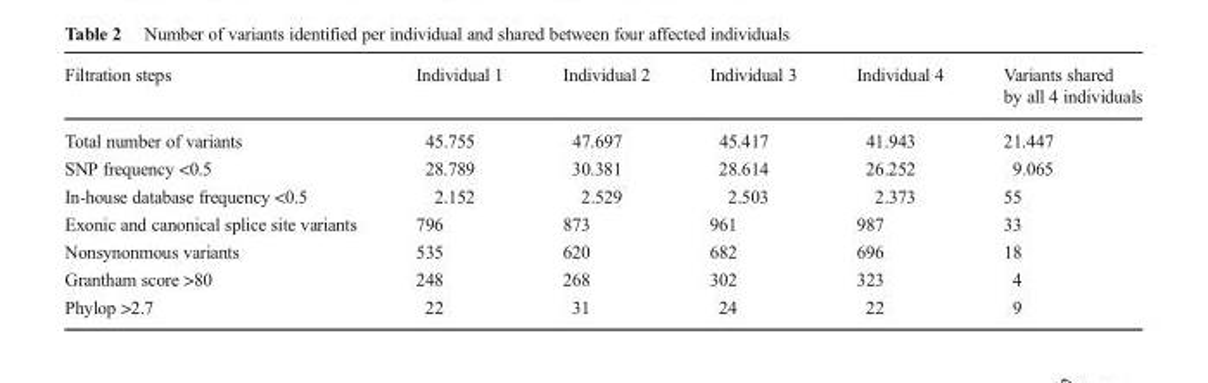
<table><thead><tr><td>Filtration steps</td><td>Individual 1</td><td>Individual 2</td><td>Individual 3</td><td>Individual 4</td><td>Variants shared by all 4 individuals</td></tr></thead><tbody><tr><td>Total number of variants</td><td>45.755</td><td>47.697</td><td>45.417</td><td>41.943</td><td>21.447</td></tr><tr><td>SNP frequency &lt;0.5</td><td>28.789</td><td>30.381</td><td>28.614</td><td>26.252</td><td>9.065</td></tr><tr><td>In-house database frequency &lt;0.5</td><td>2.152</td><td>2.529</td><td>2.503</td><td>2.373</td><td>55</td></tr><tr><td>Exonic and canonical splice site variants</td><td>796</td><td>873</td><td>961</td><td>987</td><td>33</td></tr><tr><td>Nonsynonmous variants</td><td>535</td><td>620</td><td>682</td><td>696</td><td>18</td></tr><tr><td>Grantham score &gt;80</td><td>248</td><td>268</td><td>302</td><td>323</td><td>4</td></tr><tr><td>Phylop &gt;2.7</td><td>22</td><td>31</td><td>24</td><td>22</td><td>9</td></tr></tbody></table>